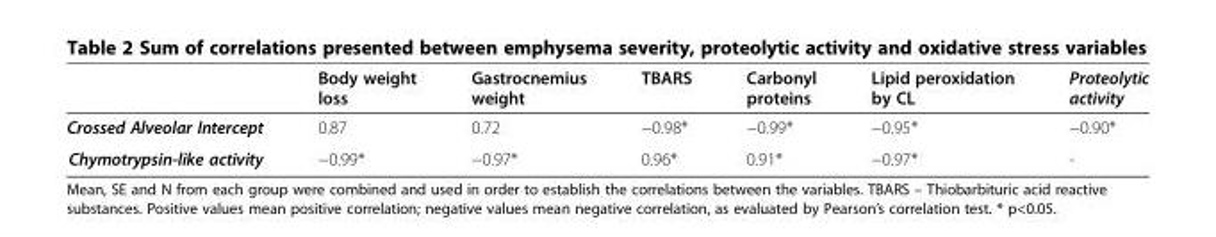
<table><thead><tr><td></td><td>Body weight loss</td><td>Gastrocnemius weight</td><td>TBARS</td><td>Carbonyl proteins</td><td>Lipid peroxidation by CL</td><td>Proteolytic activity</td></tr></thead><tbody><tr><td>Crossed Alveolar Intercept</td><td>0.87</td><td>0.72</td><td>−0.98*</td><td>−0.99*</td><td>−0.95*</td><td>−0.90*</td></tr><tr><td>Chymotrypsin-like activity</td><td>−0.99*</td><td>−0.97*</td><td>0.96*</td><td>0.91*</td><td>−0.97*</td><td>-</td></tr></tbody></table>